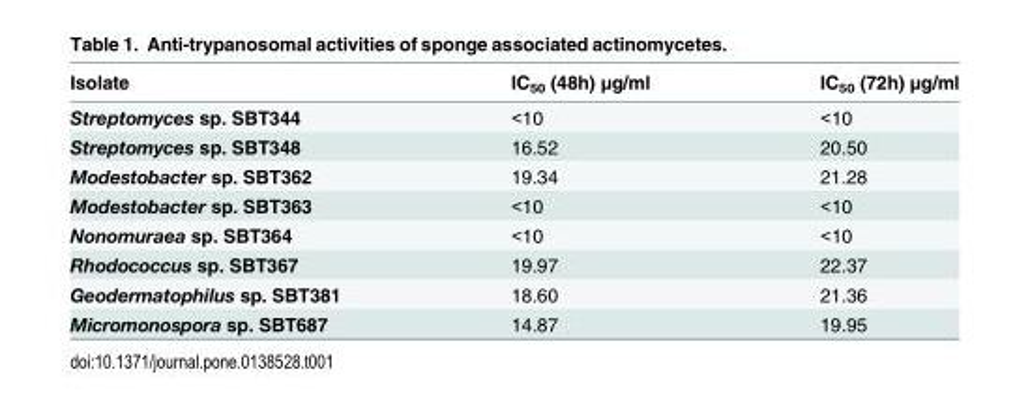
<table><thead><tr><td>Isolate</td><td>IC<sub>50</sub> (48h) μg/ml</td><td>IC<sub>50</sub> (72h) μg/ml</td></tr></thead><tbody><tr><td>Streptomyces sp. SBT344</td><td>&lt;10</td><td>&lt;10</td></tr><tr><td>Streptomyces sp. SBT348</td><td>16.52</td><td>20.50</td></tr><tr><td>Modestobacter sp. SBT362</td><td>19.34</td><td>21.28</td></tr><tr><td>Modestobacter sp. SBT363</td><td>&lt;10</td><td>&lt;10</td></tr><tr><td>Nonomuraea sp. SBT364</td><td>&lt;10</td><td>&lt;10</td></tr><tr><td>Rhodococcus sp. SBT367</td><td>19.97</td><td>22.37</td></tr><tr><td>Geodermatophilus sp. SBT381</td><td>18.60</td><td>21.36</td></tr><tr><td>Micromonospora sp. SBT687</td><td>14.87</td><td>19.95</td></tr></tbody></table>